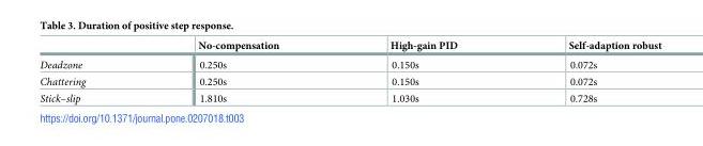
<table><thead><tr><td></td><td>No-compensation</td><td>High-gain PID</td><td>Self-adaption robust</td></tr></thead><tbody><tr><td>Deadzone</td><td>0.250s</td><td>0.150s</td><td>0.072s</td></tr><tr><td>Chattering</td><td>0.250s</td><td>0.150s</td><td>0.072s</td></tr><tr><td>Stick–slip</td><td>1.810s</td><td>1.030s</td><td>0.728s</td></tr></tbody></table>